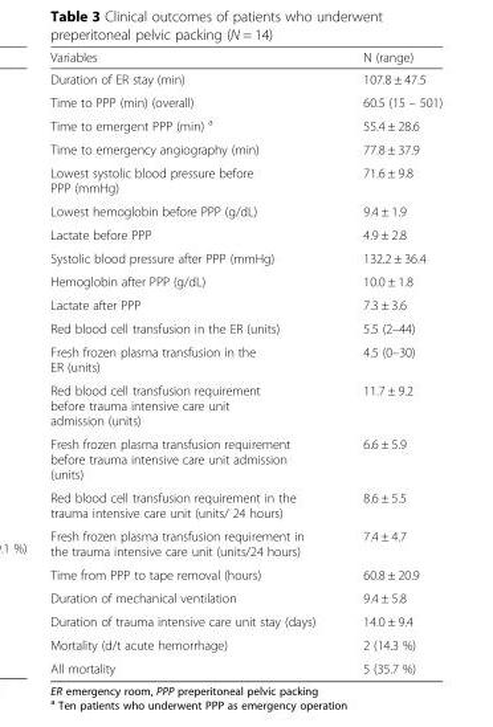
<table><thead><tr><td>Variables</td><td>N (range)</td></tr></thead><tbody><tr><td>Duration of ER stay (min)</td><td>107.8 ± 47.5</td></tr><tr><td>Time to PPP (min) (overall)</td><td>60.5 (15 – 501)</td></tr><tr><td>Time to emergent PPP (min) <sup>a</sup></td><td>55.4 ± 28.6</td></tr><tr><td>Time to emergency angiography (min)</td><td>77.8 ± 37.9</td></tr><tr><td>Lowest systolic blood pressure before PPP (mmHg)</td><td>71.6 ± 9.8</td></tr><tr><td>Lowest hemoglobin before PPP (g/dL)</td><td>9.4 ± 1.9</td></tr><tr><td>Lactate before PPP</td><td>4.9 ± 2.8</td></tr><tr><td>Systolic blood pressure after PPP (mmHg)</td><td>132.2 ± 36.4</td></tr><tr><td>Hemoglobin after PPP (g/dL)</td><td>10.0 ± 1.8</td></tr><tr><td>Lactate after PPP</td><td>7.3 ± 3.6</td></tr><tr><td>Red blood cell transfusion in the ER (units)</td><td>5.5 (2–44)</td></tr><tr><td>Fresh frozen plasma transfusion in the ER (units)</td><td>4.5 (0–30)</td></tr><tr><td>Red blood cell transfusion requirement before trauma intensive care unit admission (units)</td><td>11.7 ± 9.2</td></tr><tr><td>Fresh frozen plasma transfusion requirement before trauma intensive care unit admission (units)</td><td>6.6 ± 5.9</td></tr><tr><td>Red blood cell transfusion requirement in the trauma intensive care unit (units/ 24 hours)</td><td>8.6 ± 5.5</td></tr><tr><td>Fresh frozen plasma transfusion requirement in the trauma intensive care unit (units/24 hours)</td><td>7.4 ± 4.7</td></tr><tr><td>Time from PPP to tape removal (hours)</td><td>60.8 ± 20.9</td></tr><tr><td>Duration of mechanical ventilation</td><td>9.4 ± 5.8</td></tr><tr><td>Duration of trauma intensive care unit stay (days)</td><td>14.0 ± 9.4</td></tr><tr><td>Mortality (d/t acute hemorrhage)</td><td>2 (14.3 %)</td></tr><tr><td>All mortality</td><td>5 (35.7 %)</td></tr></tbody></table>